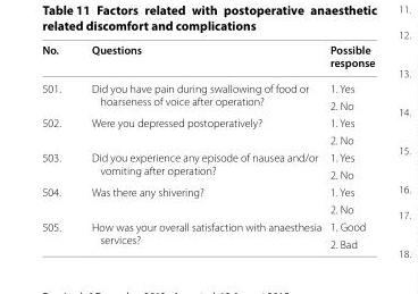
<table><thead><tr><td>No.</td><td>Questions</td><td>Possible response</td></tr></thead><tbody><tr><td rowspan="2">501.</td><td rowspan="2">Did you have pain during swallowing of food or hoarseness of voice after operation?</td><td>1. Yes</td></tr><tr><td>2. No</td></tr><tr><td rowspan="2">502.</td><td rowspan="2">Were you depressed postoperatively?</td><td>1. Yes</td></tr><tr><td>2. No</td></tr><tr><td rowspan="2">503.</td><td rowspan="2">Did you experience any episode of nausea and/or vomiting after operation?</td><td>1. Yes</td></tr><tr><td>2. No</td></tr><tr><td rowspan="2">504.</td><td rowspan="2">Was there any shivering?</td><td>1. Yes</td></tr><tr><td>2. No</td></tr><tr><td rowspan="2">505.</td><td rowspan="2">How was your overall satisfaction with anaesthesia services?</td><td>1. Good</td></tr><tr><td>2. Bad</td></tr></tbody></table>